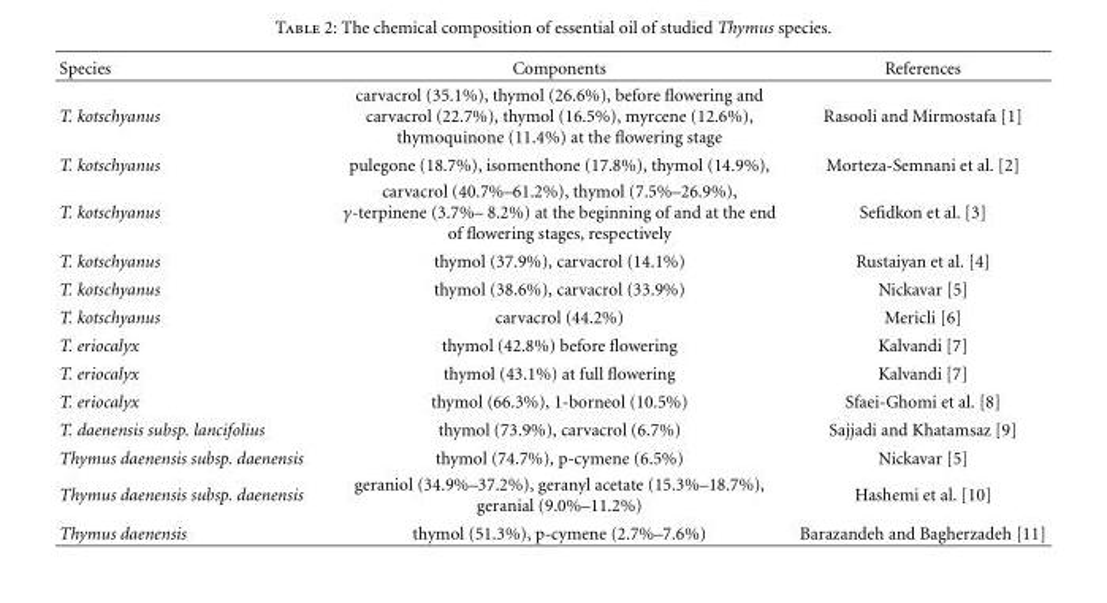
<table><thead><tr><td>Species</td><td>Components</td><td>References</td></tr></thead><tbody><tr><td>T. kotschyanus</td><td>carvacrol (35.1%), thymol (26.6%), before flowering and carvacrol (22.7%), thymol (16.5%), myrcene (12.6%), thymoquinone (11.4%) at the flowering stage</td><td>Rasooli and Mirmostafa [1]</td></tr><tr><td>T. kotschyanus</td><td>pulegone (18.7%), isomenthone (17.8%), thymol (14.9%),</td><td>Morteza-Semnani et al. [2]</td></tr><tr><td>T. kotschyanus</td><td>carvacrol (40.7%–61.2%), thymol (7.5%–26.9%), γ-terpinene (3.7%– 8.2%) at the beginning of and at the end of flowering stages, respectively</td><td>Sefidkon et al. [3]</td></tr><tr><td>T. kotschyanus</td><td>thymol (37.9%), carvacrol (14.1%)</td><td>Rustaiyan et al. [4]</td></tr><tr><td>T. kotschyanus</td><td>thymol (38.6%), carvacrol (33.9%)</td><td>Nickavar [5]</td></tr><tr><td>T. kotschyanus</td><td>carvacrol (44.2%)</td><td>Mericli [6]</td></tr><tr><td>T. eriocalyx</td><td>thymol (42.8%) before flowering</td><td>Kalvandi [7]</td></tr><tr><td>T. eriocalyx</td><td>thymol (43.1%) at full flowering</td><td>Kalvandi [7]</td></tr><tr><td>T. eriocalyx</td><td>thymol (66.3%), 1-borneol (10.5%)</td><td>Sfaei-Ghomi et al. [8]</td></tr><tr><td>T. daenensis subsp. lancifolius</td><td>thymol (73.9%), carvacrol (6.7%)</td><td>Sajjadi and Khatamsaz [9]</td></tr><tr><td>Thymus daenensis subsp. daenensis</td><td>thymol (74.7%), p-cymene (6.5%)</td><td>Nickavar [5]</td></tr><tr><td>Thymus daenensis subsp. daenensis</td><td>geraniol (34.9%–37.2%), geranyl acetate (15.3%–18.7%), geranial (9.0%–11.2%)</td><td>Hashemi et al. [10]</td></tr><tr><td>Thymus daenensis</td><td>thymol (51.3%), p-cymene (2.7%–7.6%)</td><td>Barazandeh and Bagherzadeh [11]</td></tr></tbody></table>